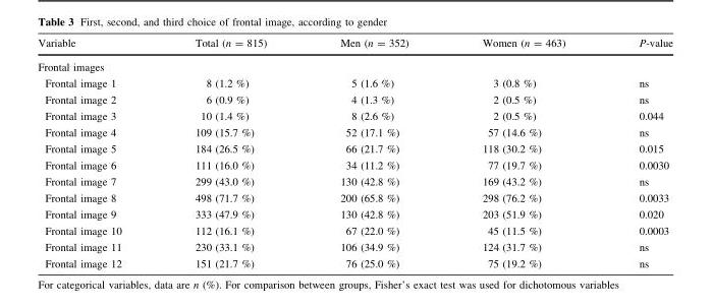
<table><thead><tr><td>Variable</td><td>Total (n = 815)</td><td>Men (n = 352)</td><td>Women (n = 463)</td><td>P-value</td></tr></thead><tbody><tr><td colspan="5">Frontal images</td></tr><tr><td>Frontal image 1</td><td>8 (1.2 %)</td><td>5 (1.6 %)</td><td>3 (0.8 %)</td><td>ns</td></tr><tr><td>Frontal image 2</td><td>6 (0.9 %)</td><td>4 (1.3 %)</td><td>2 (0.5 %)</td><td>ns</td></tr><tr><td>Frontal image 3</td><td>10 (1.4 %)</td><td>8 (2.6 %)</td><td>2 (0.5 %)</td><td>0.044</td></tr><tr><td>Frontal image 4</td><td>109 (15.7 %)</td><td>52 (17.1 %)</td><td>57 (14.6 %)</td><td>ns</td></tr><tr><td>Frontal image 5</td><td>184 (26.5 %)</td><td>66 (21.7 %)</td><td>118 (30.2 %)</td><td>0.015</td></tr><tr><td>Frontal image 6</td><td>111 (16.0 %)</td><td>34 (11.2 %)</td><td>77 (19.7 %)</td><td>0.0030</td></tr><tr><td>Frontal image 7</td><td>299 (43.0 %)</td><td>130 (42.8 %)</td><td>169 (43.2 %)</td><td>ns</td></tr><tr><td>Frontal image 8</td><td>498 (71.7 %)</td><td>200 (65.8 %)</td><td>298 (76.2 %)</td><td>0.0033</td></tr><tr><td>Frontal image 9</td><td>333 (47.9 %)</td><td>130 (42.8 %)</td><td>203 (51.9 %)</td><td>0.020</td></tr><tr><td>Frontal image 10</td><td>112 (16.1 %)</td><td>67 (22.0 %)</td><td>45 (11.5 %)</td><td>0.0003</td></tr><tr><td>Frontal image 11</td><td>230 (33.1 %)</td><td>106 (34.9 %)</td><td>124 (31.7 %)</td><td>ns</td></tr><tr><td>Frontal image 12</td><td>151 (21.7 %)</td><td>76 (25.0 %)</td><td>75 (19.2 %)</td><td>ns</td></tr></tbody></table>